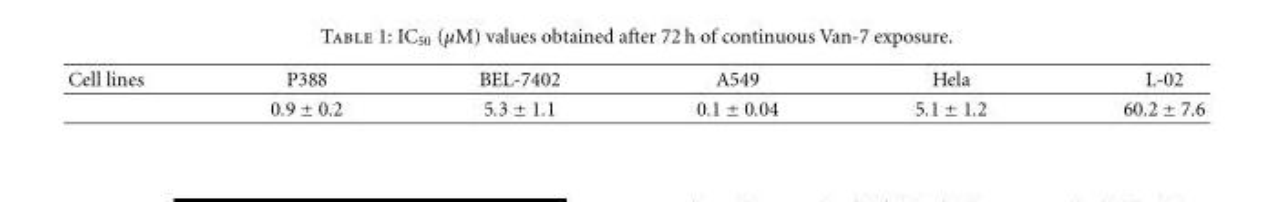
<table><thead><tr><td>Cell lines</td><td>P388</td><td>BEL-7402</td><td>A549</td><td>Hela</td><td>L-02</td></tr></thead><tbody><tr><td></td><td>0.9 ± 0.2</td><td>5.3 ± 1.1</td><td>0.1 ± 0.04</td><td>5.1 ± 1.2</td><td>60.2 ± 7.6</td></tr></tbody></table>